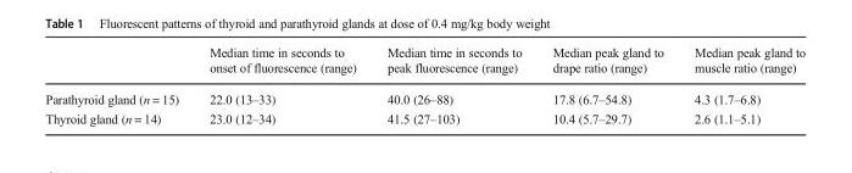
<table><thead><tr><td></td><td>Median time in seconds to onset of fluorescence (range)</td><td>Median time in seconds to peak fluorescence (range)</td><td>Median peak gland to drape ratio (range)</td><td>Median peak gland to muscle ratio (range)</td></tr></thead><tbody><tr><td>Parathyroid gland (n = 15)</td><td>22.0 (13–33)</td><td>40.0 (26–88)</td><td>17.8 (6.7–54.8)</td><td>4.3 (1.7–6.8)</td></tr><tr><td>Thyroid gland (n = 14)</td><td>23.0 (12–34)</td><td>41.5 (27–103)</td><td>10.4 (5.7–29.7)</td><td>2.6 (1.1–5.1)</td></tr></tbody></table>